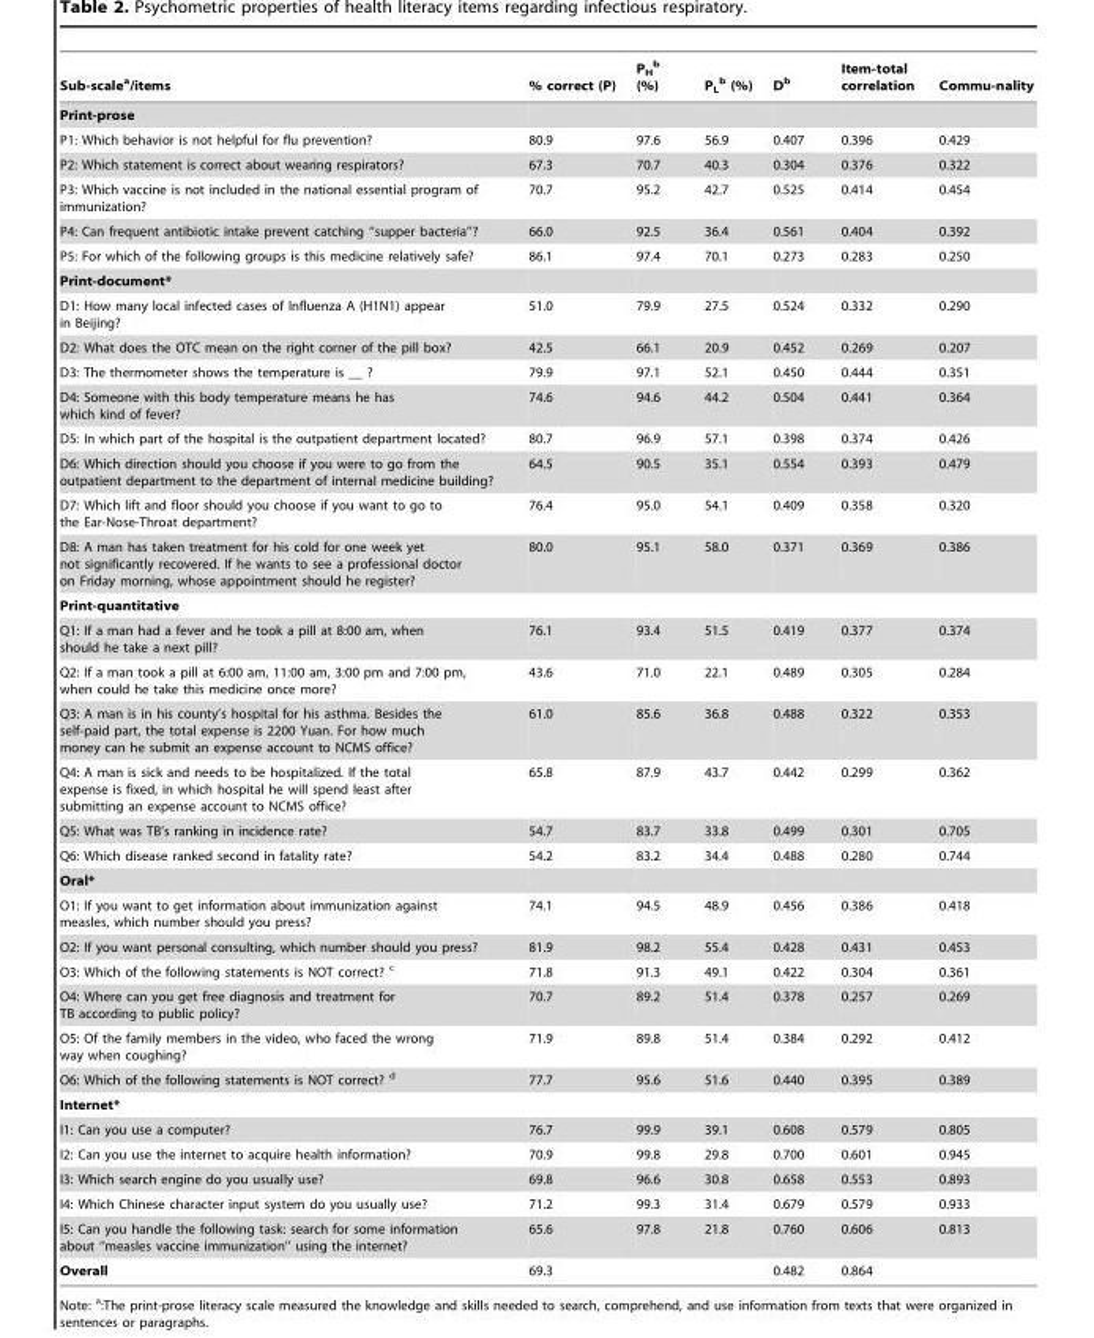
<table><thead><tr><td>Sub-scale<sup>a</sup>/items</td><td>% correct (P)</td><td>P<sub>H</sub> b (%)</td><td>P<sub>L</sub> b (%)</td><td>D<sup>b</sup></td><td>Item-total correlation</td><td>Commu-nality</td></tr></thead><tbody><tr><td colspan="7">Print-prose</td></tr><tr><td>P1: Which behavior is not helpful for flu prevention?</td><td>80.9</td><td>97.6</td><td>56.9</td><td>0.407</td><td>0.396</td><td>0.429</td></tr><tr><td>P2: Which statement is correct about wearing respirators?</td><td>67.3</td><td>70.7</td><td>40.3</td><td>0.304</td><td>0.376</td><td>0.322</td></tr><tr><td>P3: Which vaccine is not included in the national essential program of immunization?</td><td>70.7</td><td>95.2</td><td>42.7</td><td>0.525</td><td>0.414</td><td>0.454</td></tr><tr><td>P4: Can frequent antibiotic intake prevent catching ‘‘supper bacteria’’?</td><td>66.0</td><td>92.5</td><td>36.4</td><td>0.561</td><td>0.404</td><td>0.392</td></tr><tr><td>P5: For which of the following groups is this medicine relatively safe?</td><td>86.1</td><td>97.4</td><td>70.1</td><td>0.273</td><td>0.283</td><td>0.250</td></tr><tr><td colspan="7">Print-document*</td></tr><tr><td>D1: How many local infected cases of Influenza A (H1N1) appear in Beijing?</td><td>51.0</td><td>79.9</td><td>27.5</td><td>0.524</td><td>0.332</td><td>0.290</td></tr><tr><td>D2: What does the OTC mean on the right corner of the pill box?</td><td>42.5</td><td>66.1</td><td>20.9</td><td>0.452</td><td>0.269</td><td>0.207</td></tr><tr><td>D3: The thermometer shows the temperature is __ ?</td><td>79.9</td><td>97.1</td><td>52.1</td><td>0.450</td><td>0.444</td><td>0.351</td></tr><tr><td>D4: Someone with this body temperature means he has which kind of fever?</td><td>74.6</td><td>94.6</td><td>44.2</td><td>0.504</td><td>0.441</td><td>0.364</td></tr><tr><td>D5: In which part of the hospital is the outpatient department located?</td><td>80.7</td><td>96.9</td><td>57.1</td><td>0.398</td><td>0.374</td><td>0.426</td></tr><tr><td>D6: Which direction should you choose if you were to go from the outpatient department to the department of internal medicine building?</td><td>64.5</td><td>90.5</td><td>35.1</td><td>0.554</td><td>0.393</td><td>0.479</td></tr><tr><td>D7: Which lift and floor should you choose if you want to go to the Ear-Nose-Throat department?</td><td>76.4</td><td>95.0</td><td>54.1</td><td>0.409</td><td>0.358</td><td>0.320</td></tr><tr><td>D8: A man has taken treatment for his cold for one week yet not significantly recovered. If he wants to see a professional doctor on Friday morning, whose appointment should he register?</td><td>80.0</td><td>95.1</td><td>58.0</td><td>0.371</td><td>0.369</td><td>0.386</td></tr><tr><td colspan="7">Print-quantitative</td></tr><tr><td>Q1: If a man had a fever and he took a pill at 8:00 am, when should he take a next pill?</td><td>76.1</td><td>93.4</td><td>51.5</td><td>0.419</td><td>0.377</td><td>0.374</td></tr><tr><td>Q2: If a man took a pill at 6:00 am, 11:00 am, 3:00 pm and 7:00 pm, when could he take this medicine once more?</td><td>43.6</td><td>71.0</td><td>22.1</td><td>0.489</td><td>0.305</td><td>0.284</td></tr><tr><td>Q3: A man is in his county’s hospital for his asthma. Besides the self-paid part, the total expense is 2200 Yuan. For how much money can he submit an expense account to NCMS office?</td><td>61.0</td><td>85.6</td><td>36.8</td><td>0.488</td><td>0.322</td><td>0.353</td></tr><tr><td>Q4: A man is sick and needs to be hospitalized. If the total expense is fixed, in which hospital he will spend least after submitting an expense account to NCMS office?</td><td>65.8</td><td>87.9</td><td>43.7</td><td>0.442</td><td>0.299</td><td>0.362</td></tr><tr><td>Q5: What was TB’s ranking in incidence rate?</td><td>54.7</td><td>83.7</td><td>33.8</td><td>0.499</td><td>0.301</td><td>0.705</td></tr><tr><td>Q6: Which disease ranked second in fatality rate?</td><td>54.2</td><td>83.2</td><td>34.4</td><td>0.488</td><td>0.280</td><td>0.744</td></tr><tr><td colspan="7">Oral*</td></tr><tr><td>O1: If you want to get information about immunization against measles, which number should you press?</td><td>74.1</td><td>94.5</td><td>48.9</td><td>0.456</td><td>0.386</td><td>0.418</td></tr><tr><td>O2: If you want personal consulting, which number should you press?</td><td>81.9</td><td>98.2</td><td>55.4</td><td>0.428</td><td>0.431</td><td>0.453</td></tr><tr><td>O3: Which of the following statements is NOT correct? c</td><td>71.8</td><td>91.3</td><td>49.1</td><td>0.422</td><td>0.304</td><td>0.361</td></tr><tr><td>O4: Where can you get free diagnosis and treatment for TB according to public policy?</td><td>70.7</td><td>89.2</td><td>51.4</td><td>0.378</td><td>0.257</td><td>0.269</td></tr><tr><td>O5: Of the family members in the video, who faced the wrong way when coughing?</td><td>71.9</td><td>89.8</td><td>51.4</td><td>0.384</td><td>0.292</td><td>0.412</td></tr><tr><td>O6: Which of the following statements is NOT correct? d</td><td>77.7</td><td>95.6</td><td>51.6</td><td>0.440</td><td>0.395</td><td>0.389</td></tr><tr><td colspan="7">Internet*</td></tr><tr><td>I1: Can you use a computer?</td><td>76.7</td><td>99.9</td><td>39.1</td><td>0.608</td><td>0.579</td><td>0.805</td></tr><tr><td>I2: Can you use the internet to acquire health information?</td><td>70.9</td><td>99.8</td><td>29.8</td><td>0.700</td><td>0.601</td><td>0.945</td></tr><tr><td>I3: Which search engine do you usually use?</td><td>69.8</td><td>96.6</td><td>30.8</td><td>0.658</td><td>0.553</td><td>0.893</td></tr><tr><td>I4: Which Chinese character input system do you usually use?</td><td>71.2</td><td>99.3</td><td>31.4</td><td>0.679</td><td>0.579</td><td>0.933</td></tr><tr><td>I5: Can you handle the following task: search for some information about ‘‘measles vaccine immunization’’ using the internet?</td><td>65.6</td><td>97.8</td><td>21.8</td><td>0.760</td><td>0.606</td><td>0.813</td></tr><tr><td>Overall</td><td>69.3</td><td></td><td></td><td>0.482</td><td>0.864</td><td></td></tr></tbody></table>